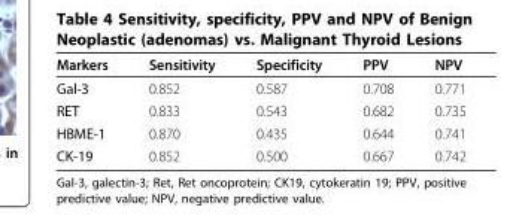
<table><thead><tr><td>Markers</td><td>Sensitivity</td><td>Specificity</td><td>PPV</td><td>NPV</td></tr></thead><tbody><tr><td>Gal-3</td><td>0.852</td><td>0.587</td><td>0.708</td><td>0.771</td></tr><tr><td>RET</td><td>0.833</td><td>0.543</td><td>0.682</td><td>0.735</td></tr><tr><td>HBME-1</td><td>0.870</td><td>0.435</td><td>0.644</td><td>0.741</td></tr><tr><td>CK-19</td><td>0.852</td><td>0.500</td><td>0.667</td><td>0.742</td></tr></tbody></table>